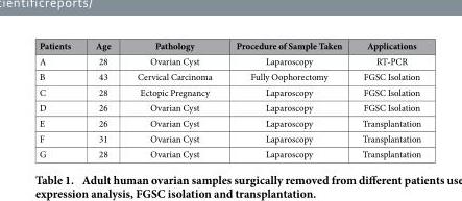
<table><thead><tr><td>Patients</td><td>Age</td><td>Pathology</td><td>Procedure of Sample Taken</td><td>Applications</td></tr></thead><tbody><tr><td>A</td><td>28</td><td>Ovarian Cyst</td><td>Laparoscopy</td><td>RT-PCR</td></tr><tr><td>B</td><td>43</td><td>Cervical Carcinoma</td><td>Fully Oophorectomy</td><td>FGSC Isolation</td></tr><tr><td>C</td><td>28</td><td>Ectopic Pregnancy</td><td>Laparoscopy</td><td>FGSC Isolation</td></tr><tr><td>D</td><td>26</td><td>Ovarian Cyst</td><td>Laparoscopy</td><td>FGSC Isolation</td></tr><tr><td>E</td><td>26</td><td>Ovarian Cyst</td><td>Laparoscopy</td><td>Transplantation</td></tr><tr><td>F</td><td>31</td><td>Ovarian Cyst</td><td>Laparoscopy</td><td>Transplantation</td></tr><tr><td>G</td><td>28</td><td>Ovarian Cyst</td><td>Laparoscopy</td><td>Transplantation</td></tr></tbody></table>